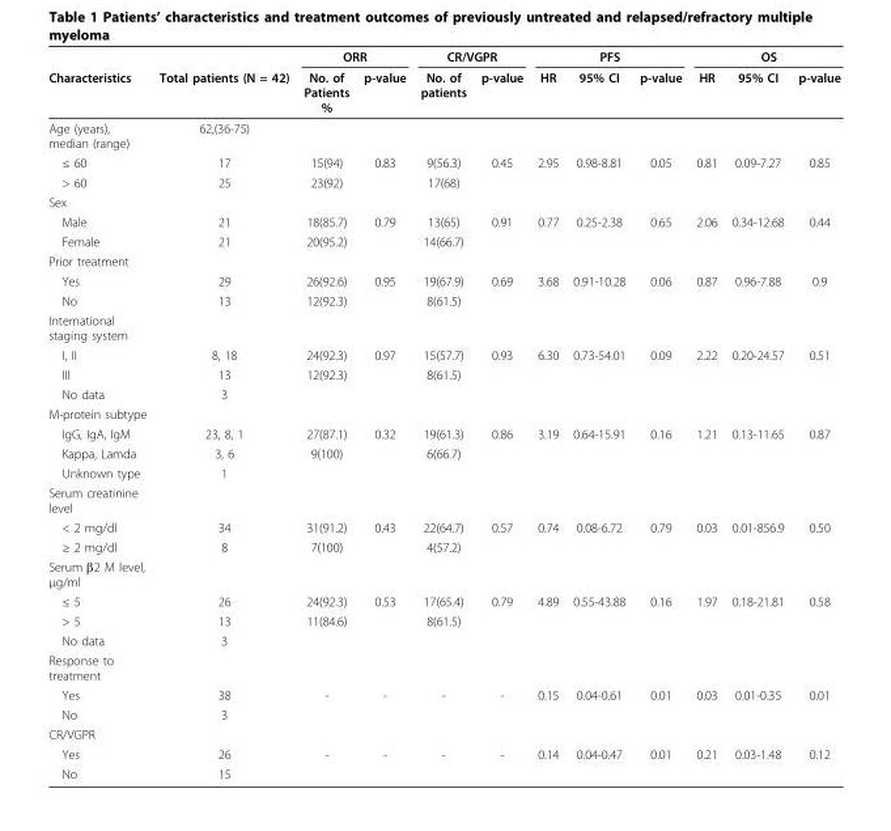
<table><thead><tr><td rowspan="2">Characteristics</td><td rowspan="2">Total patients (N = 42)</td><td colspan="2">ORR</td><td colspan="2">CR/VGPR</td><td colspan="3">PFS</td><td colspan="3">OS</td></tr><tr><td>No. of Patients %</td><td>p-value</td><td>No. of patients</td><td>p-value</td><td>HR</td><td>95% CI</td><td>p-value</td><td>HR</td><td>95% CI</td><td>p-value</td></tr></thead><tbody><tr><td>Age (years), median (range)</td><td>62,(36-75)</td><td></td><td></td><td></td><td></td><td></td><td></td><td></td><td></td><td></td><td></td></tr><tr><td>≤ 60</td><td>17</td><td>15(94)</td><td>0.83</td><td>9(56.3)</td><td>0.45</td><td>2.95</td><td>0.98-8.81</td><td>0.05</td><td>0.81</td><td>0.09-7.27</td><td>0.85</td></tr><tr><td>&gt; 60</td><td>25</td><td>23(92)</td><td></td><td>17(68)</td><td></td><td></td><td></td><td></td><td></td><td></td><td></td></tr><tr><td colspan="12">Sex</td></tr><tr><td>Male</td><td>21</td><td>18(85.7)</td><td>0.79</td><td>13(65)</td><td>0.91</td><td>0.77</td><td>0.25-2.38</td><td>0.65</td><td>2.06</td><td>0.34-12.68</td><td>0.44</td></tr><tr><td>Female</td><td>21</td><td>20(95.2)</td><td></td><td>14(66.7)</td><td></td><td></td><td></td><td></td><td></td><td></td><td></td></tr><tr><td colspan="12">Prior treatment</td></tr><tr><td>Yes</td><td>29</td><td>26(92.6)</td><td>0.95</td><td>19(67.9)</td><td>0.69</td><td>3.68</td><td>0.91-10.28</td><td>0.06</td><td>0.87</td><td>0.96-7.88</td><td>0.9</td></tr><tr><td>No</td><td>13</td><td>12(92.3)</td><td></td><td>8(61.5)</td><td></td><td></td><td></td><td></td><td></td><td></td><td></td></tr><tr><td colspan="12">International staging system</td></tr><tr><td>I, II</td><td>8, 18</td><td>24(92.3)</td><td>0.97</td><td>15(57.7)</td><td>0.93</td><td>6.30</td><td>0.73-54.01</td><td>0.09</td><td>2.22</td><td>0.20-24.57</td><td>0.51</td></tr><tr><td>III</td><td>13</td><td>12(92.3)</td><td></td><td>8(61.5)</td><td></td><td></td><td></td><td></td><td></td><td></td><td></td></tr><tr><td>No data</td><td>3</td><td></td><td></td><td></td><td></td><td></td><td></td><td></td><td></td><td></td><td></td></tr><tr><td colspan="12">M-protein subtype</td></tr><tr><td>IgG, IgA, IgM</td><td>23, 8, 1</td><td>27(87.1)</td><td>0.32</td><td>19(61.3)</td><td>0.86</td><td>3.19</td><td>0.64-15.91</td><td>0.16</td><td>1.21</td><td>0.13-11.65</td><td>0.87</td></tr><tr><td>Kappa, Lamda</td><td>3, 6</td><td>9(100)</td><td></td><td>6(66.7)</td><td></td><td></td><td></td><td></td><td></td><td></td><td></td></tr><tr><td>Unknown type</td><td>1</td><td></td><td></td><td></td><td></td><td></td><td></td><td></td><td></td><td></td><td></td></tr><tr><td colspan="12">Serum creatinine level</td></tr><tr><td>&lt; 2 mg/dl</td><td>34</td><td>31(91.2)</td><td>0.43</td><td>22(64.7)</td><td>0.57</td><td>0.74</td><td>0.08-6.72</td><td>0.79</td><td>0.03</td><td>0.01-856.9</td><td>0.50</td></tr><tr><td>≥ 2 mg/dl</td><td>8</td><td>7(100)</td><td></td><td>4(57.2)</td><td></td><td></td><td></td><td></td><td></td><td></td><td></td></tr><tr><td colspan="12">Serum β2 M level, μg/ml</td></tr><tr><td>≤ 5</td><td>26</td><td>24(92.3)</td><td>0.53</td><td>17(65.4)</td><td>0.79</td><td>4.89</td><td>0.55-43.88</td><td>0.16</td><td>1.97</td><td>0.18-21.81</td><td>0.58</td></tr><tr><td>&gt; 5</td><td>13</td><td>11(84.6)</td><td></td><td>8(61.5)</td><td></td><td></td><td></td><td></td><td></td><td></td><td></td></tr><tr><td>No data</td><td>3</td><td></td><td></td><td></td><td></td><td></td><td></td><td></td><td></td><td></td><td></td></tr><tr><td colspan="12">Response to treatment</td></tr><tr><td>Yes</td><td>38</td><td>-</td><td>-</td><td>-</td><td>-</td><td>0.15</td><td>0.04-0.61</td><td>0.01</td><td>0.03</td><td>0.01-0.35</td><td>0.01</td></tr><tr><td>No</td><td>3</td><td></td><td></td><td></td><td></td><td></td><td></td><td></td><td></td><td></td><td></td></tr><tr><td colspan="12">CR/VGPR</td></tr><tr><td>Yes</td><td>26</td><td>-</td><td>-</td><td>-</td><td>-</td><td>0.14</td><td>0.04-0.47</td><td>0.01</td><td>0.21</td><td>0.03-1.48</td><td>0.12</td></tr><tr><td>No</td><td>15</td><td></td><td></td><td></td><td></td><td></td><td></td><td></td><td></td><td></td><td></td></tr></tbody></table>